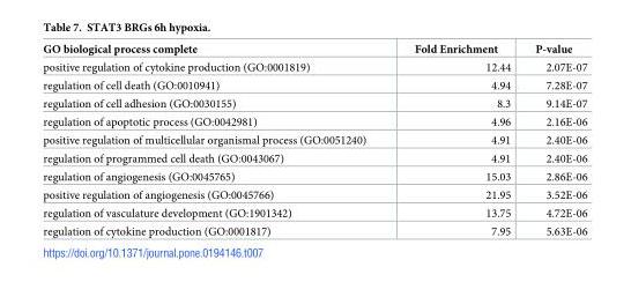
<table><thead><tr><td>GO biological process complete</td><td>Fold Enrichment</td><td>P-value</td></tr></thead><tbody><tr><td>positive regulation of cytokine production (GO:0001819)</td><td>12.44</td><td>2.07E-07</td></tr><tr><td>regulation of cell death (GO:0010941)</td><td>4.94</td><td>7.28E-07</td></tr><tr><td>regulation of cell adhesion (GO:0030155)</td><td>8.3</td><td>9.14E-07</td></tr><tr><td>regulation of apoptotic process (GO:0042981)</td><td>4.96</td><td>2.16E-06</td></tr><tr><td>positive regulation of multicellular organismal process (GO:0051240)</td><td>4.91</td><td>2.40E-06</td></tr><tr><td>regulation of programmed cell death (GO:0043067)</td><td>4.91</td><td>2.40E-06</td></tr><tr><td>regulation of angiogenesis (GO:0045765)</td><td>15.03</td><td>2.86E-06</td></tr><tr><td>positive regulation of angiogenesis (GO:0045766)</td><td>21.95</td><td>3.52E-06</td></tr><tr><td>regulation of vasculature development (GO:1901342)</td><td>13.75</td><td>4.72E-06</td></tr><tr><td>regulation of cytokine production (GO:0001817)</td><td>7.95</td><td>5.63E-06</td></tr></tbody></table>